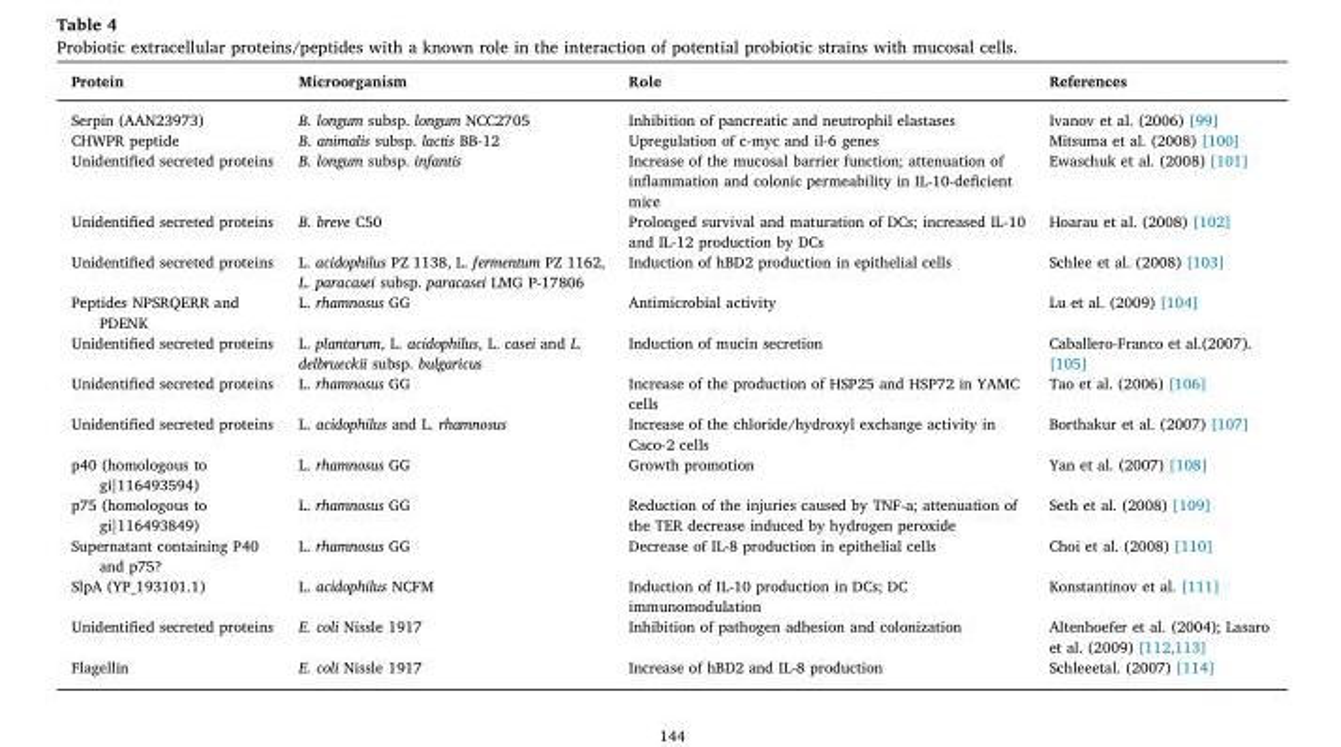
<table><thead><tr><td>Protein</td><td>Microorganism</td><td>Role</td><td>References</td></tr></thead><tbody><tr><td>Serpin (AAN23973)</td><td>B. longum subsp. longum NCC2705</td><td>Inhibition of pancreatic and neutrophil elastases</td><td>Ivanov et al. (2006) [99]</td></tr><tr><td>CHWPR peptide</td><td>B. animalis subsp. lactis BB-12</td><td>Upregulation of c-myc and il-6 genes</td><td>Mitsuma et al. (2008) [100]</td></tr><tr><td>Unidentified secreted proteins</td><td>B. longum subsp. infantis</td><td>Increase of the mucosal barrier function; attenuation of inflammation and colonic permeability in IL-10-deficient mice</td><td>Ewaschuk et al. (2008) [101]</td></tr><tr><td>Unidentified secreted proteins</td><td>B. breve C50</td><td>Prolonged survival and maturation of DCs; increased IL-10 and IL-12 production by DCs</td><td>Hoarau et al. (2008) [102]</td></tr><tr><td>Unidentified secreted proteins</td><td>L. acidophilus PZ 1138, L. fermentum PZ 1162, L. paracasei subsp. paracasei LMG P-17806</td><td>Induction of hBD2 production in epithelial cells</td><td>Schlee et al. (2008) [103]</td></tr><tr><td>Peptides NPSRQERR and PDENK</td><td>L. rhamnosus GG</td><td>Antimicrobial activity</td><td>Lu et al. (2009) [104]</td></tr><tr><td>Unidentified secreted proteins</td><td>L. plantarum, L. acidophilus, L. casei and L. delbrueckii subsp. bulgaricus</td><td>Induction of mucin secretion</td><td>Caballero-Franco et al.(2007). [105]</td></tr><tr><td>Unidentified secreted proteins</td><td>L. rhamnosus GG</td><td>Increase of the production of HSP25 and HSP72 in YAMC cells</td><td>Tao et al. (2006) [106]</td></tr><tr><td>Unidentified secreted proteins</td><td>L. acidophilus and L. rhamnosus</td><td>Increase of the chloride/hydroxyl exchange activity in Caco-2 cells</td><td>Borthakur et al. (2007) [107]</td></tr><tr><td>p40 (homologous to gi|116493594)</td><td>L. rhamnosus GG</td><td>Growth promotion</td><td>Yan et al. (2007) [108]</td></tr><tr><td>p75 (homologous to gi|116493849)</td><td>L. rhamnosus GG</td><td>Reduction of the injuries caused by TNF-a; attenuation of the TER decrease induced by hydrogen peroxide</td><td>Seth et al. (2008) [109]</td></tr><tr><td>Supernatant containing P40 and p75?</td><td>L. rhamnosus GG</td><td>Decrease of IL-8 production in epithelial cells</td><td>Choi et al. (2008) [110]</td></tr><tr><td>SlpA (YP_193101.1)</td><td>L. acidophilus NCFM</td><td>Induction of IL-10 production in DCs; DC immunomodulation</td><td>Konstantinov et al. [111]</td></tr><tr><td>Unidentified secreted proteins</td><td>E. coli Nissle 1917</td><td>Inhibition of pathogen adhesion and colonization</td><td>Altenhoefer et al. (2004); Lasaro et al. (2009) [112,113]</td></tr><tr><td>Flagellin</td><td>E. coli Nissle 1917</td><td>Increase of hBD2 and IL-8 production</td><td>Schleeetal. (2007) [114]</td></tr></tbody></table>